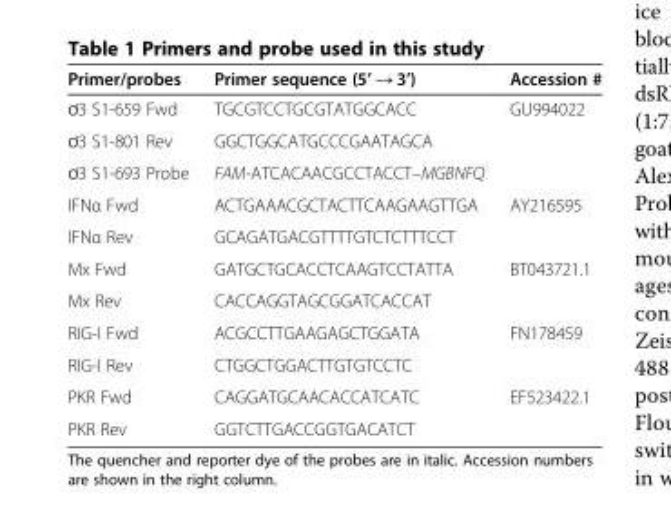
<table><thead><tr><td>Primer/probes</td><td>Primer sequence (5’ → 3’)</td><td>Accession #</td></tr></thead><tbody><tr><td>ơ3 S1-659 Fwd</td><td>TGCGTCCTGCGTATGGCACC</td><td rowspan="3">GU994022</td></tr><tr><td>ơ3 S1-801 Rev</td><td>GGCTGGCATGCCCGAATAGCA</td></tr><tr><td>ơ3 S1-693 Probe</td><td>FAM-ATCACAACGCCTACCT–MGBNFQ</td></tr><tr><td>IFNα Fwd</td><td>ACTGAAACGCTACTTCAAGAAGTTGA</td><td rowspan="2">AY216595</td></tr><tr><td>IFNα Rev</td><td>GCAGATGACGTTTTGTCTCTTTCCT</td></tr><tr><td>Mx Fwd</td><td>GATGCTGCACCTCAAGTCCTATTA</td><td rowspan="2">BT043721.1</td></tr><tr><td>Mx Rev</td><td>CACCAGGTAGCGGATCACCAT</td></tr><tr><td>RIG-I Fwd</td><td>ACGCCTTGAAGAGCTGGATA</td><td rowspan="2">FN178459</td></tr><tr><td>RIG-I Rev</td><td>CTGGCTGGACTTGTGTCCTC</td></tr><tr><td>PKR Fwd</td><td>CAGGATGCAACACCATCATC</td><td rowspan="2">EF523422.1</td></tr><tr><td>PKR Rev</td><td>GGTCTTGACCGGTGACATCT</td></tr></tbody></table>